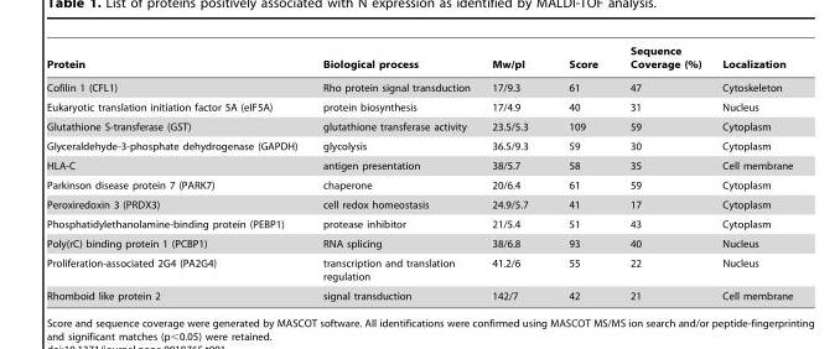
<table><thead><tr><td>Protein</td><td>Biological process</td><td>Mw/pI</td><td>Score</td><td>Sequence Coverage (%)</td><td>Localization</td></tr></thead><tbody><tr><td>Cofilin 1 (CFL1)</td><td>Rho protein signal transduction</td><td>17/9.3</td><td>61</td><td>47</td><td>Cytoskeleton</td></tr><tr><td>Eukaryotic translation initiation factor 5A (eIF5A)</td><td>protein biosynthesis</td><td>17/4.9</td><td>40</td><td>31</td><td>Nucleus</td></tr><tr><td>Glutathione S-transferase (GST)</td><td>glutathione transferase activity</td><td>23.5/5.3</td><td>109</td><td>59</td><td>Cytoplasm</td></tr><tr><td>Glyceraldehyde-3-phosphate dehydrogenase (GAPDH)</td><td>glycolysis</td><td>36.5/9.3</td><td>59</td><td>30</td><td>Cytoplasm</td></tr><tr><td>HLA-C</td><td>antigen presentation</td><td>38/5.7</td><td>58</td><td>35</td><td>Cell membrane</td></tr><tr><td>Parkinson disease protein 7 (PARK7)</td><td>chaperone</td><td>20/6.4</td><td>61</td><td>59</td><td>Cytoplasm</td></tr><tr><td>Peroxiredoxin 3 (PRDX3)</td><td>cell redox homeostasis</td><td>24.9/5.7</td><td>41</td><td>17</td><td>Cytoplasm</td></tr><tr><td>Phosphatidylethanolamine-binding protein (PEBP1)</td><td>protease inhibitor</td><td>21/5.4</td><td>51</td><td>43</td><td>Cytoplasm</td></tr><tr><td>Poly(rC) binding protein 1 (PCBP1)</td><td>RNA splicing</td><td>38/6.8</td><td>93</td><td>40</td><td>Nucleus</td></tr><tr><td>Proliferation-associated 2G4 (PA2G4)</td><td>transcription and translation regulation</td><td>41.2/6</td><td>55</td><td>22</td><td>Nucleus</td></tr><tr><td>Rhomboid like protein 2</td><td>signal transduction</td><td>142/7</td><td>42</td><td>21</td><td>Cell membrane</td></tr></tbody></table>